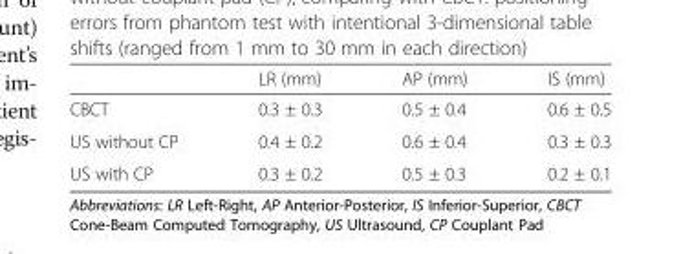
<table><thead><tr><td></td><td>LR (mm)</td><td>AP (mm)</td><td>IS (mm)</td></tr></thead><tbody><tr><td>CBCT</td><td>0.3 ± 0.3</td><td>0.5 ± 0.4</td><td>0.6 ± 0.5</td></tr><tr><td>US without CP</td><td>0.4 ± 0.2</td><td>0.6 ± 0.4</td><td>0.3 ± 0.3</td></tr><tr><td>US with CP</td><td>0.3 ± 0.2</td><td>0.5 ± 0.3</td><td>0.2 ± 0.1</td></tr></tbody></table>